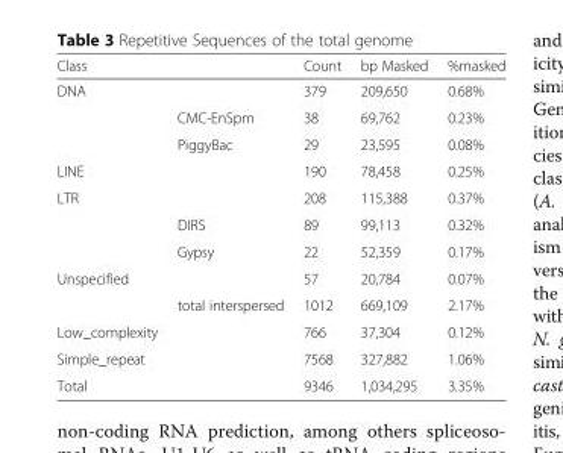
<table><thead><tr><td>Class</td><td></td><td>Count</td><td>bp Masked</td><td>%masked</td></tr></thead><tbody><tr><td rowspan="3">DNA</td><td></td><td>379</td><td>209,650</td><td>0.68%</td></tr><tr><td>CMC-EnSpm</td><td>38</td><td>69,762</td><td>0.23%</td></tr><tr><td>PiggyBac</td><td>29</td><td>23,595</td><td>0.08%</td></tr><tr><td>LINE</td><td></td><td>190</td><td>78,458</td><td>0.25%</td></tr><tr><td rowspan="3">LTR</td><td></td><td>208</td><td>115,388</td><td>0.37%</td></tr><tr><td>DIRS</td><td>89</td><td>99,113</td><td>0.32%</td></tr><tr><td>Gypsy</td><td>22</td><td>52,359</td><td>0.17%</td></tr><tr><td rowspan="2">Unspecified</td><td></td><td>57</td><td>20,784</td><td>0.07%</td></tr><tr><td>total interspersed</td><td>1012</td><td>669,109</td><td>2.17%</td></tr><tr><td>Low_complexity</td><td></td><td>766</td><td>37,304</td><td>0.12%</td></tr><tr><td>Simple_repeat</td><td></td><td>7568</td><td>327,882</td><td>1.06%</td></tr><tr><td>Total</td><td></td><td>9346</td><td>1,034,295</td><td>3.35%</td></tr></tbody></table>